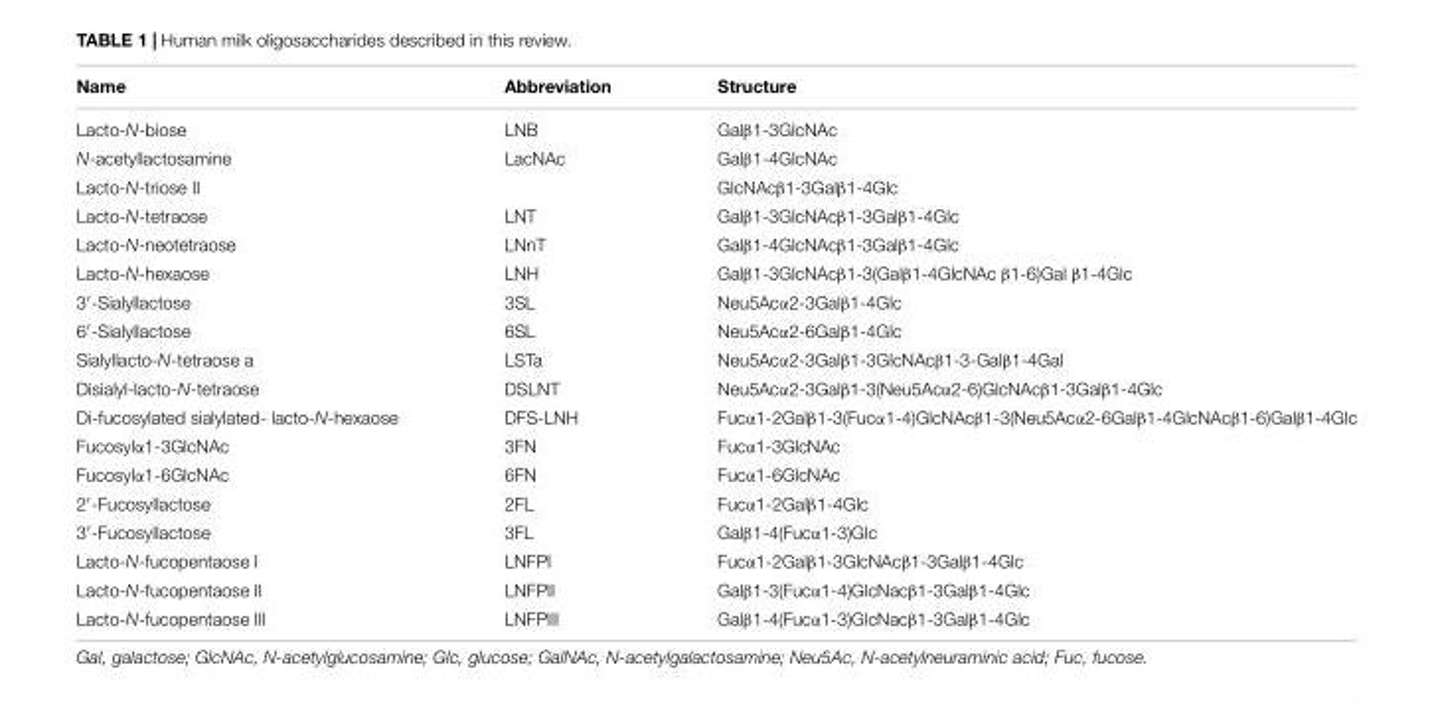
<table><thead><tr><td>Name</td><td>Abbreviation</td><td>Structure</td></tr></thead><tbody><tr><td>Lacto-N-biose</td><td>LNB</td><td>Galβ1-3GlcNAc</td></tr><tr><td>N-acetyllactosamine</td><td>LacNAc</td><td>Galβ1-4GlcNAc</td></tr><tr><td>Lacto-N-triose II</td><td></td><td>GlcNAcβ1-3Galβ1-4Glc</td></tr><tr><td>Lacto-N-tetraose</td><td>LNT</td><td>Galβ1-3GlcNAcβ1-3Galβ1-4Glc</td></tr><tr><td>Lacto-N-neotetraose</td><td>LNnT</td><td>Galβ1-4GlcNAcβ1-3Galβ1-4Glc</td></tr><tr><td>Lacto-N-hexaose</td><td>LNH</td><td>Galβ1-3GlcNAcβ1-3(Galβ1-4GlcNAc β1-6)Gal β1-4Glc</td></tr><tr><td>3′-Sialyllactose</td><td>3SL</td><td>Neu5Acα2-3Galβ1-4Glc</td></tr><tr><td>6′-Sialyllactose</td><td>6SL</td><td>Neu5Acα2-6Galβ1-4Glc</td></tr><tr><td>Sialyllacto-N-tetraose a</td><td>LSTa</td><td>Neu5Acα2-3Galβ1-3GlcNAcβ1-3-Galβ1-4Gal</td></tr><tr><td>Disialyl-lacto-N-tetraose</td><td>DSLNT</td><td>Neu5Acα2-3Galβ1-3(Neu5Acα2-6)GlcNAcβ1-3Galβ1-4Glc</td></tr><tr><td>Di-fucosylated sialylated- lacto-N-hexaose</td><td>DFS-LNH</td><td>Fucα1-2Galβ1-3(Fucα1-4)GlcNAcβ1-3(Neu5Acα2-6Galβ1-4GlcNAcβ1-6)Galβ1-4Glc</td></tr><tr><td>Fucosylα1-3GlcNAc</td><td>3FN</td><td>Fucα1-3GlcNAc</td></tr><tr><td>Fucosylα1-6GlcNAc</td><td>6FN</td><td>Fucα1-6GlcNAc</td></tr><tr><td>2′-Fucosyllactose</td><td>2FL</td><td>Fucα1-2Galβ1-4Glc</td></tr><tr><td>3′-Fucosyllactose</td><td>3FL</td><td>Galβ1-4(Fucα1-3)Glc</td></tr><tr><td>Lacto-N-fucopentaose I</td><td>LNFPI</td><td>Fucα1-2Galβ1-3GlcNAcβ1-3Galβ1-4Glc</td></tr><tr><td>Lacto-N-fucopentaose II</td><td>LNFPII</td><td>Galβ1-3(Fucα1-4)GlcNacβ1-3Galβ1-4Glc</td></tr><tr><td>Lacto-N-fucopentaose III</td><td>LNFPIII</td><td>Galβ1-4(Fucα1-3)GlcNacβ1-3Galβ1-4Glc</td></tr></tbody></table>